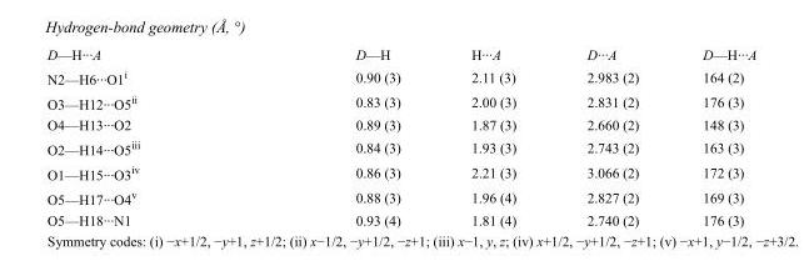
<table><tbody><tr><td>D—H···A</td><td>D—H</td><td>H···A</td><td>D···A</td><td>D—H···A</td></tr><tr><td>N2—H6···O1<sup>i</sup></td><td>0.90 (3)</td><td>2.11 (3)</td><td>2.983 (2)</td><td>164 (2)</td></tr><tr><td>O3—H12···O5<sup>ii</sup></td><td>0.83 (3)</td><td>2.00 (3)</td><td>2.831 (2)</td><td>176 (3)</td></tr><tr><td>O4—H13···O2</td><td>0.89 (3)</td><td>1.87 (3)</td><td>2.660 (2)</td><td>148 (3)</td></tr><tr><td>O2—H14···O5<sup>iii</sup></td><td>0.84 (3)</td><td>1.93 (3)</td><td>2.743 (2)</td><td>163 (3)</td></tr><tr><td>O1—H15···O3<sup>iv</sup></td><td>0.86 (3)</td><td>2.21 (3)</td><td>3.066 (2)</td><td>172 (3)</td></tr><tr><td>O5—H17···O4<sup>v</sup></td><td>0.88 (3)</td><td>1.96 (4)</td><td>2.827 (2)</td><td>169 (3)</td></tr><tr><td>O5—H18···N1</td><td>0.93 (4)</td><td>1.81 (4)</td><td>2.740 (2)</td><td>176 (3)</td></tr></tbody></table>